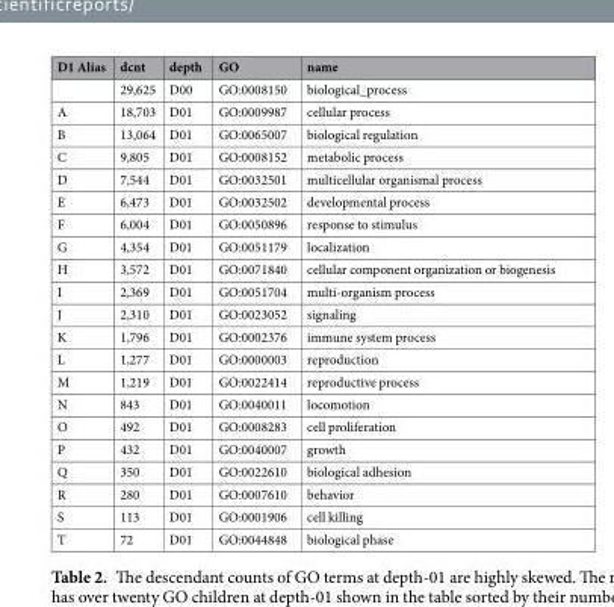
<table><thead><tr><td>D1 Alias</td><td>dcnt</td><td>depth</td><td>GO</td><td>name</td></tr></thead><tbody><tr><td></td><td>29,625</td><td>D00</td><td>GO:0008150</td><td>biological_process</td></tr><tr><td>A</td><td>18,703</td><td>D01</td><td>GO:0009987</td><td>cellular process</td></tr><tr><td>B</td><td>13,064</td><td>D01</td><td>GO:0065007</td><td>biological regulation</td></tr><tr><td>C</td><td>9,805</td><td>D01</td><td>GO:0008152</td><td>metabolic process</td></tr><tr><td>D</td><td>7,544</td><td>D01</td><td>GO:0032501</td><td>multicellular organismal process</td></tr><tr><td>E</td><td>6,473</td><td>D01</td><td>GO:0032502</td><td>developmental process</td></tr><tr><td>F</td><td>6,004</td><td>D01</td><td>GO:0050896</td><td>response to stimulus</td></tr><tr><td>G</td><td>4,354</td><td>D01</td><td>GO:0051179</td><td>localization</td></tr><tr><td>H</td><td>3,572</td><td>D01</td><td>GO:0071840</td><td>cellular component organization or biogenesis</td></tr><tr><td>I</td><td>2,369</td><td>D01</td><td>GO:0051704</td><td>multi-organism process</td></tr><tr><td>J</td><td>2,310</td><td>D01</td><td>GO:0023052</td><td>signaling</td></tr><tr><td>K</td><td>1,796</td><td>D01</td><td>GO:0002376</td><td>immune system process</td></tr><tr><td>L</td><td>1,277</td><td>D01</td><td>GO:0000003</td><td>reproduction</td></tr><tr><td>M</td><td>1,219</td><td>D01</td><td>GO:0022414</td><td>reproductive process</td></tr><tr><td>N</td><td>843</td><td>D01</td><td>GO:0040011</td><td>locomotion</td></tr><tr><td>O</td><td>492</td><td>D01</td><td>GO:0008283</td><td>cell proliferation</td></tr><tr><td>P</td><td>432</td><td>D01</td><td>GO:0040007</td><td>growth</td></tr><tr><td>Q</td><td>350</td><td>D01</td><td>GO:0022610</td><td>biological adhesion</td></tr><tr><td>R</td><td>280</td><td>D01</td><td>GO:0007610</td><td>behavior</td></tr><tr><td>S</td><td>113</td><td>D01</td><td>GO:0001906</td><td>cell killing</td></tr><tr><td>T</td><td>72</td><td>D01</td><td>GO:0044848</td><td>biological phase</td></tr></tbody></table>